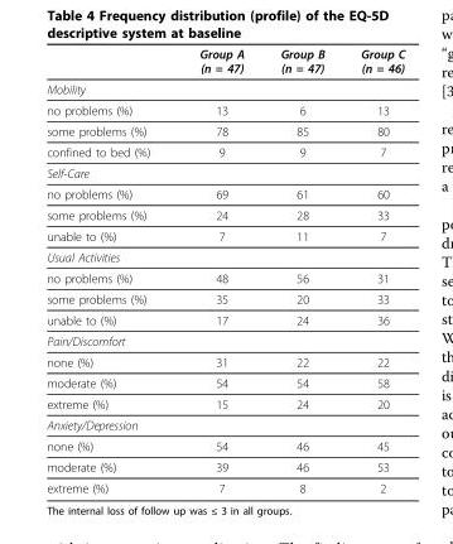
<table><thead><tr><td></td><td>Group A (n = 47)</td><td>Group B (n = 47)</td><td>Group C (n = 46)</td></tr></thead><tbody><tr><td colspan="4">Mobility</td></tr><tr><td>no problems (%)</td><td>13</td><td>6</td><td>13</td></tr><tr><td>some problems (%)</td><td>78</td><td>85</td><td>80</td></tr><tr><td>confined to bed (%)</td><td>9</td><td>9</td><td>7</td></tr><tr><td colspan="4">Self-Care</td></tr><tr><td>no problems (%)</td><td>69</td><td>61</td><td>60</td></tr><tr><td>some problems (%)</td><td>24</td><td>28</td><td>33</td></tr><tr><td>unable to (%)</td><td>7</td><td>11</td><td>7</td></tr><tr><td colspan="4">Usual Activities</td></tr><tr><td>no problems (%)</td><td>48</td><td>56</td><td>31</td></tr><tr><td>some problems (%)</td><td>35</td><td>20</td><td>33</td></tr><tr><td>unable to (%)</td><td>17</td><td>24</td><td>36</td></tr><tr><td colspan="4">Pain/Discomfort</td></tr><tr><td>none (%)</td><td>31</td><td>22</td><td>22</td></tr><tr><td>moderate (%)</td><td>54</td><td>54</td><td>58</td></tr><tr><td>extreme (%)</td><td>15</td><td>24</td><td>20</td></tr><tr><td colspan="4">Anxiety/Depression</td></tr><tr><td>none (%)</td><td>54</td><td>46</td><td>45</td></tr><tr><td>moderate (%)</td><td>39</td><td>46</td><td>53</td></tr><tr><td>extreme (%)</td><td>7</td><td>8</td><td>2</td></tr></tbody></table>